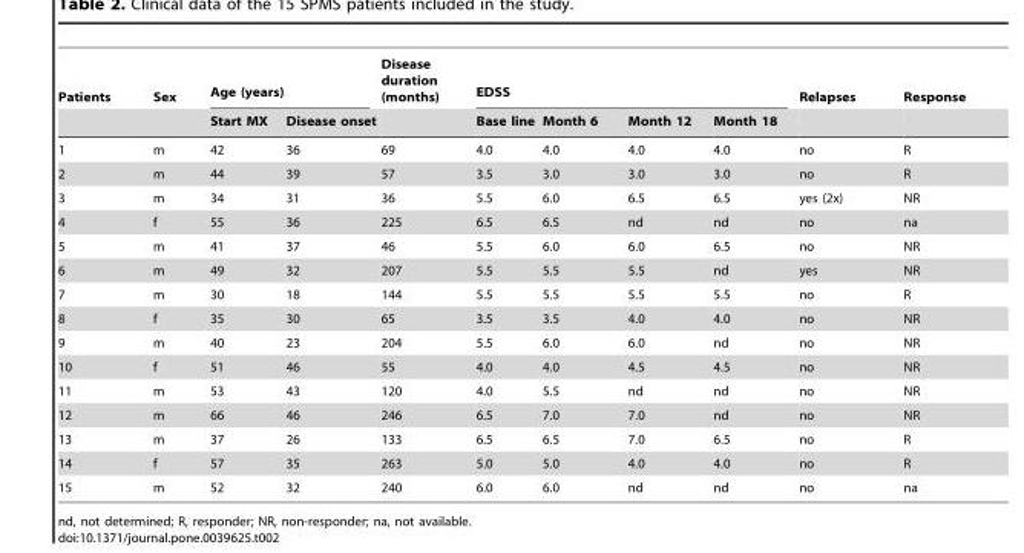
<table><thead><tr><td rowspan="2">Patients</td><td rowspan="2">Sex</td><td colspan="2">Age (years)</td><td rowspan="2">Disease duration (months)</td><td colspan="4">EDSS</td><td rowspan="2">Relapses</td><td rowspan="2">Response</td></tr><tr><td>Start MX</td><td>Disease onset</td><td>Base line</td><td>Month 6</td><td>Month 12</td><td>Month 18</td></tr></thead><tbody><tr><td>1</td><td>m</td><td>42</td><td>36</td><td>69</td><td>4.0</td><td>4.0</td><td>4.0</td><td>4.0</td><td>no</td><td>R</td></tr><tr><td>2</td><td>m</td><td>44</td><td>39</td><td>57</td><td>3.5</td><td>3.0</td><td>3.0</td><td>3.0</td><td>no</td><td>R</td></tr><tr><td>3</td><td>m</td><td>34</td><td>31</td><td>36</td><td>5.5</td><td>6.0</td><td>6.5</td><td>6.5</td><td>yes (2x)</td><td>NR</td></tr><tr><td>4</td><td>f</td><td>55</td><td>36</td><td>225</td><td>6.5</td><td>6.5</td><td>nd</td><td>nd</td><td>no</td><td>na</td></tr><tr><td>5</td><td>m</td><td>41</td><td>37</td><td>46</td><td>5.5</td><td>6.0</td><td>6.0</td><td>6.5</td><td>no</td><td>NR</td></tr><tr><td>6</td><td>m</td><td>49</td><td>32</td><td>207</td><td>5.5</td><td>5.5</td><td>5.5</td><td>nd</td><td>yes</td><td>NR</td></tr><tr><td>7</td><td>m</td><td>30</td><td>18</td><td>144</td><td>5.5</td><td>5.5</td><td>5.5</td><td>5.5</td><td>no</td><td>R</td></tr><tr><td>8</td><td>f</td><td>35</td><td>30</td><td>65</td><td>3.5</td><td>3.5</td><td>4.0</td><td>4.0</td><td>no</td><td>NR</td></tr><tr><td>9</td><td>m</td><td>40</td><td>23</td><td>204</td><td>5.5</td><td>6.0</td><td>6.0</td><td>nd</td><td>no</td><td>NR</td></tr><tr><td>10</td><td>f</td><td>51</td><td>46</td><td>55</td><td>4.0</td><td>4.0</td><td>4.5</td><td>4.5</td><td>no</td><td>NR</td></tr><tr><td>11</td><td>m</td><td>53</td><td>43</td><td>120</td><td>4.0</td><td>5.5</td><td>nd</td><td>nd</td><td>no</td><td>NR</td></tr><tr><td>12</td><td>m</td><td>66</td><td>46</td><td>246</td><td>6.5</td><td>7.0</td><td>7.0</td><td>nd</td><td>no</td><td>NR</td></tr><tr><td>13</td><td>m</td><td>37</td><td>26</td><td>133</td><td>6.5</td><td>6.5</td><td>7.0</td><td>6.5</td><td>no</td><td>R</td></tr><tr><td>14</td><td>f</td><td>57</td><td>35</td><td>263</td><td>5.0</td><td>5.0</td><td>4.0</td><td>4.0</td><td>no</td><td>R</td></tr><tr><td>15</td><td>m</td><td>52</td><td>32</td><td>240</td><td>6.0</td><td>6.0</td><td>nd</td><td>nd</td><td>no</td><td>na</td></tr></tbody></table>